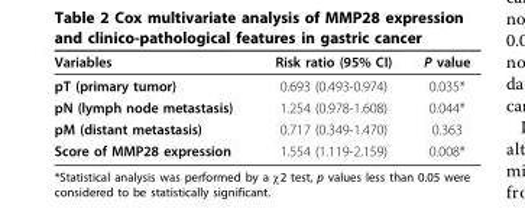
<table><thead><tr><td>Variables</td><td>Risk ratio (95% CI)</td><td>P value</td></tr></thead><tbody><tr><td>pT (primary tumor)</td><td>0.693 (0.493-0.974)</td><td>0.035*</td></tr><tr><td>pN (lymph node metastasis)</td><td>1.254 (0.978-1.608)</td><td>0.044*</td></tr><tr><td>pM (distant metastasis)</td><td>0.717 (0.349-1.470)</td><td>0.363</td></tr><tr><td>Score of MMP28 expression</td><td>1.554 (1.119-2.159)</td><td>0.008*</td></tr></tbody></table>